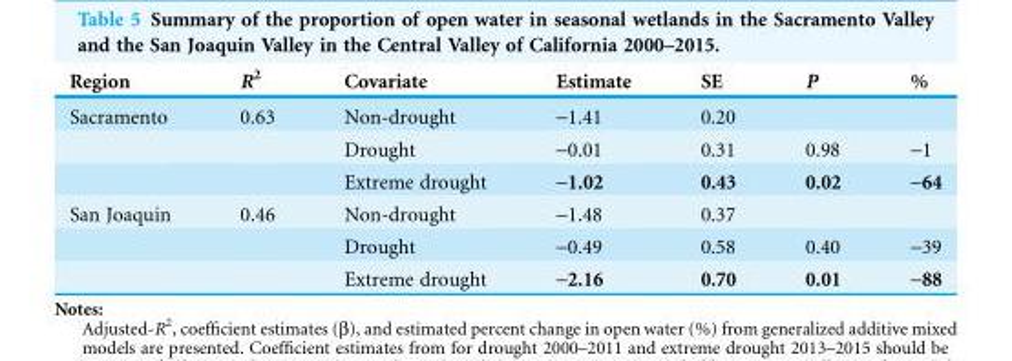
<table><thead><tr><td>Region</td><td>R<sup>2</sup></td><td>Covariate</td><td>Estimate</td><td>SE</td><td>P</td><td>%</td></tr></thead><tbody><tr><td rowspan="3">Sacramento</td><td>0.63</td><td>Non-drought</td><td>-1.41</td><td>0.20</td><td></td><td></td></tr><tr><td></td><td>Drought</td><td>-0.01</td><td>0.31</td><td>0.98</td><td>-1</td></tr><tr><td></td><td>Extreme drought</td><td>-1.02</td><td>0.43</td><td>0.02</td><td>-64</td></tr><tr><td rowspan="3">San Joaquin</td><td>0.46</td><td>Non-drought</td><td>-1.48</td><td>0.37</td><td></td><td></td></tr><tr><td></td><td>Drought</td><td>-0.49</td><td>0.58</td><td>0.40</td><td>-39</td></tr><tr><td></td><td>Extreme drought</td><td>-2.16</td><td>0.70</td><td>0.01</td><td>-88</td></tr></tbody></table>